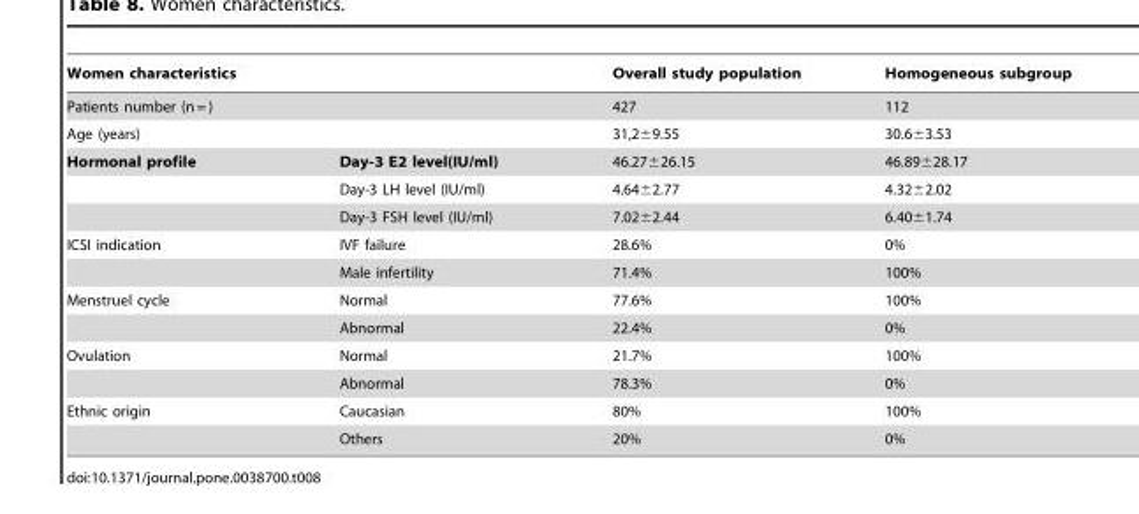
<table><thead><tr><td rowspan="3" colspan="2">Women characteristics Patients number (n = ) Age (years)</td><td rowspan="4">Overall study population 427 31,2±9.55 46.27±26.15</td><td rowspan="4">Homogeneous subgroup 112 30.6±3.53 46.89±28.17</td></tr><tr></tr><tr></tr><tr><td>Hormonal profile</td><td>Day-3 E2 level(IU/ml)</td></tr></thead><tbody><tr><td></td><td>Day-3 LH level (IU/ml)</td><td>4.64±2.77</td><td>4.32±2.02</td></tr><tr><td></td><td>Day-3 FSH level (IU/ml)</td><td>7.02±2.44</td><td>6.40±1.74</td></tr><tr><td rowspan="2">ICSI indication</td><td>IVF failure</td><td>28.6%</td><td>0%</td></tr><tr><td>Male infertility</td><td>71.4%</td><td>100%</td></tr><tr><td rowspan="2">Menstruel cycle</td><td>Normal</td><td>77.6%</td><td>100%</td></tr><tr><td>Abnormal</td><td>22.4%</td><td>0%</td></tr><tr><td rowspan="2">Ovulation</td><td>Normal</td><td>21.7%</td><td>100%</td></tr><tr><td>Abnormal</td><td>78.3%</td><td>0%</td></tr><tr><td rowspan="2">Ethnic origin</td><td>Caucasian</td><td>80%</td><td>100%</td></tr><tr><td>Others</td><td>20%</td><td>0%</td></tr></tbody></table>